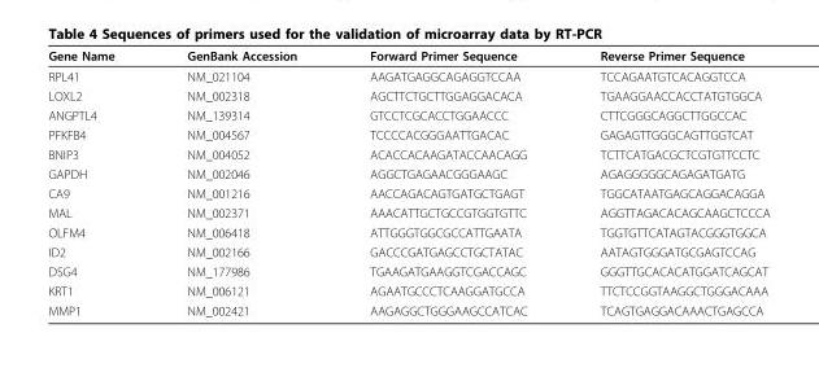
<table><thead><tr><td>Gene Name</td><td>GenBank Accession</td><td>Forward Primer Sequence</td><td>Reverse Primer Sequence</td></tr></thead><tbody><tr><td>RPL41</td><td>NM_021104</td><td>AAGATGAGGCAGAGGTCCAA</td><td>TCCAGAATGTCACAGGTCCA</td></tr><tr><td>LOXL2</td><td>NM_002318</td><td>AGCTTCTGCTTGGAGGACACA</td><td>TGAAGGAACCACCTATGTGGCA</td></tr><tr><td>ANGPTL4</td><td>NM_139314</td><td>GTCCTCGCACCTGGAACCC</td><td>CTTCGGGCAGGCTTGGCCAC</td></tr><tr><td>PFKFB4</td><td>NM_004567</td><td>TCCCCACGGGAATTGACAC</td><td>GAGAGTTGGGCAGTTGGTCAT</td></tr><tr><td>BNIP3</td><td>NM_004052</td><td>ACACCACAAGATACCAACAGG</td><td>TCTTCATGACGCTCGTGTTCCTC</td></tr><tr><td>GAPDH</td><td>NM_002046</td><td>AGGCTGAGAACGGGAAGC</td><td>AGAGGGGGCAGAGATGATG</td></tr><tr><td>CA9</td><td>NM_001216</td><td>AACCAGACAGTGATGCTGAGT</td><td>TGGCATAATGAGCAGGACAGGA</td></tr><tr><td>MAL</td><td>NM_002371</td><td>AAACATTGCTGCCGTGGTGTTC</td><td>AGGTTAGACACAGCAAGCTCCCA</td></tr><tr><td>OLFM4</td><td>NM_006418</td><td>ATTGGGTGGCGCCATTGAATA</td><td>TGGTGTTCATAGTACGGGTGGCA</td></tr><tr><td>ID2</td><td>NM_002166</td><td>GACCCGATGAGCCTGCTATAC</td><td>AATAGTGGGATGCGAGTCCAG</td></tr><tr><td>DSG4</td><td>NM_177986</td><td>TGAAGATGAAGGTCGACCAGC</td><td>GGGTTGCACACATGGATCAGCAT</td></tr><tr><td>KRT1</td><td>NM_006121</td><td>AGAATGCCCTCAAGGATGCCA</td><td>TTCTCCGGTAAGGCTGGGACAAA</td></tr><tr><td>MMP1</td><td>NM_002421</td><td>AAGAGGCTGGGAAGCCATCAC</td><td>TCAGTGAGGACAAACTGAGCCA</td></tr></tbody></table>